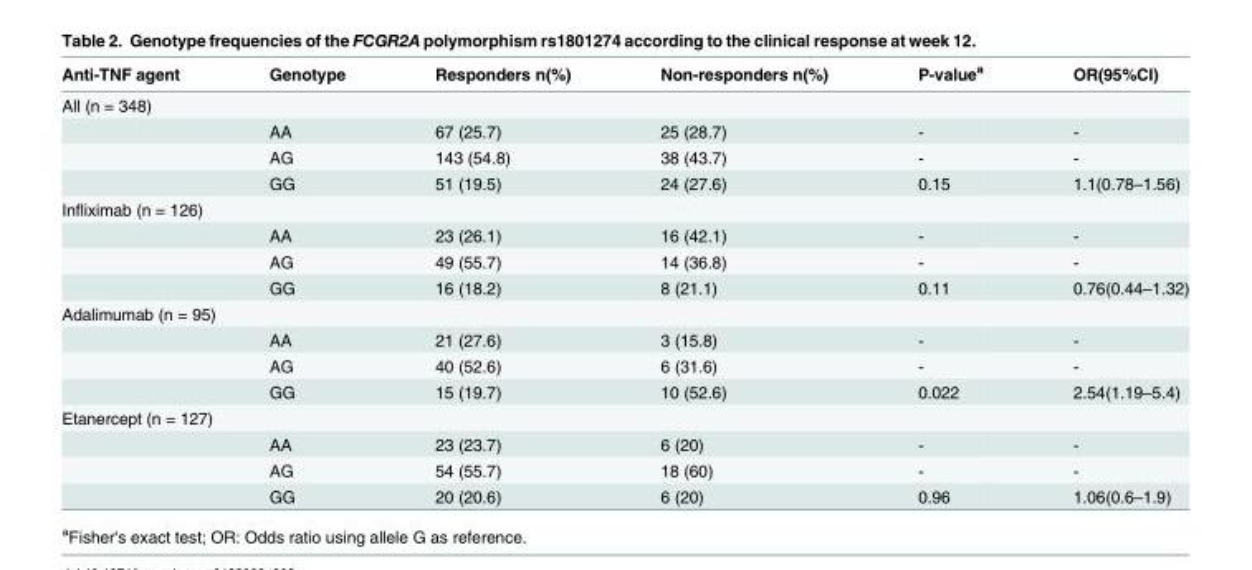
<table><thead><tr><td>Anti-TNF agent</td><td>Genotype</td><td>Responders n(%)</td><td>Non-responders n(%)</td><td>P-value<sup>a</sup></td><td>OR(95%CI)</td></tr></thead><tbody><tr><td colspan="6">All (n = 348)</td></tr><tr><td></td><td>AA</td><td>67 (25.7)</td><td>25 (28.7)</td><td>-</td><td>-</td></tr><tr><td></td><td>AG</td><td>143 (54.8)</td><td>38 (43.7)</td><td>-</td><td>-</td></tr><tr><td></td><td>GG</td><td>51 (19.5)</td><td>24 (27.6)</td><td>0.15</td><td>1.1(0.78–1.56)</td></tr><tr><td colspan="6">Infliximab (n = 126)</td></tr><tr><td></td><td>AA</td><td>23 (26.1)</td><td>16 (42.1)</td><td>-</td><td>-</td></tr><tr><td></td><td>AG</td><td>49 (55.7)</td><td>14 (36.8)</td><td>-</td><td>-</td></tr><tr><td></td><td>GG</td><td>16 (18.2)</td><td>8 (21.1)</td><td>0.11</td><td>0.76(0.44–1.32)</td></tr><tr><td colspan="6">Adalimumab (n = 95)</td></tr><tr><td></td><td>AA</td><td>21 (27.6)</td><td>3 (15.8)</td><td>-</td><td>-</td></tr><tr><td></td><td>AG</td><td>40 (52.6)</td><td>6 (31.6)</td><td>-</td><td>-</td></tr><tr><td></td><td>GG</td><td>15 (19.7)</td><td>10 (52.6)</td><td>0.022</td><td>2.54(1.19–5.4)</td></tr><tr><td colspan="6">Etanercept (n = 127)</td></tr><tr><td></td><td>AA</td><td>23 (23.7)</td><td>6 (20)</td><td>-</td><td>-</td></tr><tr><td></td><td>AG</td><td>54 (55.7)</td><td>18 (60)</td><td>-</td><td>-</td></tr><tr><td></td><td>GG</td><td>20 (20.6)</td><td>6 (20)</td><td>0.96</td><td>1.06(0.6–1.9)</td></tr></tbody></table>